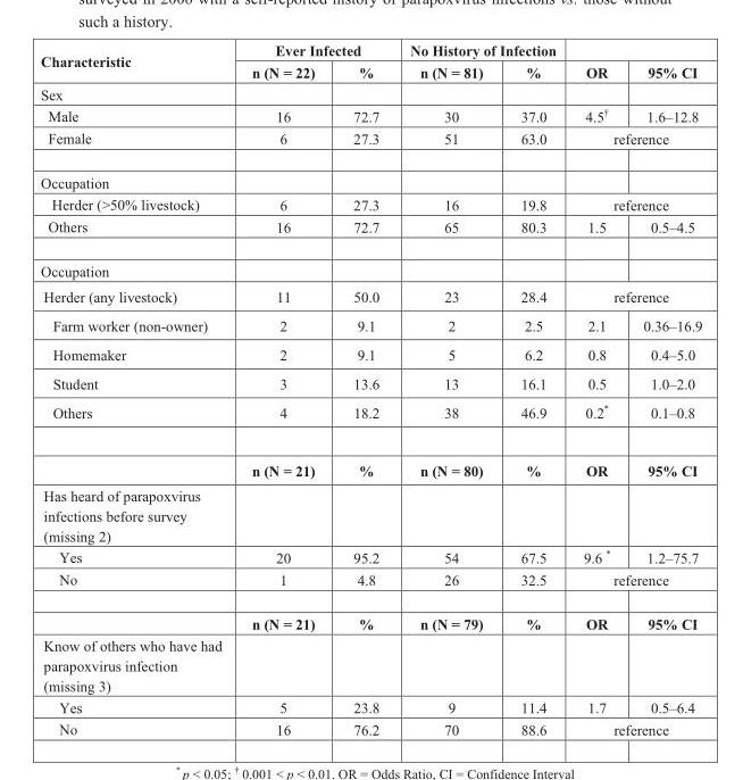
<table><thead><tr><td rowspan="2">Characteristic</td><td colspan="2">Ever Infected</td><td colspan="2">No History of Infection</td><td rowspan="2">OR</td><td rowspan="2">95% CI</td></tr><tr><td>n (N = 22)</td><td>%</td><td>n (N = 81)</td><td>%</td></tr></thead><tbody><tr><td colspan="7">Sex</td></tr><tr><td>Male</td><td>16</td><td>72.7</td><td>30</td><td>37.0</td><td>4.5<sup>†</sup></td><td>1.6–12.8</td></tr><tr><td>Female</td><td>6</td><td>27.3</td><td>51</td><td>63.0</td><td colspan="2">reference</td></tr><tr><td colspan="7">Occupation</td></tr><tr><td>Herder (&gt;50% livestock)</td><td>6</td><td>27.3</td><td>16</td><td>19.8</td><td colspan="2">reference</td></tr><tr><td>Others</td><td>16</td><td>72.7</td><td>65</td><td>80.3</td><td>1.5</td><td>0.5–4.5</td></tr><tr><td colspan="7">Occupation</td></tr><tr><td>Herder (any livestock)</td><td>11</td><td>50.0</td><td>23</td><td>28.4</td><td colspan="2">reference</td></tr><tr><td>Farm worker (non-owner)</td><td>2</td><td>9.1</td><td>2</td><td>2.5</td><td>2.1</td><td>0.36–16.9</td></tr><tr><td>Homemaker</td><td>2</td><td>9.1</td><td>5</td><td>6.2</td><td>0.8</td><td>0.4–5.0</td></tr><tr><td>Student</td><td>3</td><td>13.6</td><td>13</td><td>16.1</td><td>0.5</td><td>1.0–2.0</td></tr><tr><td rowspan="2">Others</td><td>4</td><td>18.2</td><td>38</td><td>46.9</td><td>0.2*</td><td>0.1–0.8</td></tr><tr><td>n (N = 21)</td><td>%</td><td>n (N = 80)</td><td>%</td><td>OR</td><td>95% CI</td></tr><tr><td>Has heard of parapoxvirus infections before survey</td><td rowspan="2"></td><td rowspan="2"></td><td rowspan="2"></td><td rowspan="2"></td><td rowspan="2"></td><td rowspan="2"></td></tr><tr><td>(missing 2)</td></tr><tr><td>Yes</td><td>20</td><td>95.2</td><td>54</td><td>67.5</td><td>9.6 *</td><td>1.2–75.7</td></tr><tr><td rowspan="2">No</td><td>1</td><td>4.8</td><td>26</td><td>32.5</td><td colspan="2">reference</td></tr><tr><td>n (N = 21)</td><td>%</td><td>n (N = 79)</td><td>%</td><td>OR</td><td>95% CI</td></tr><tr><td>Know of others who have had parapoxvirus infection</td><td rowspan="2"></td><td rowspan="2"></td><td rowspan="2"></td><td rowspan="2"></td><td rowspan="2"></td><td rowspan="2"></td></tr><tr><td>(missing 3)</td></tr><tr><td>Yes</td><td>5</td><td>23.8</td><td>9</td><td>11.4</td><td>1.7</td><td>0.5–6.4</td></tr><tr><td>No</td><td>16</td><td>76.2</td><td>70</td><td>88.6</td><td colspan="2">reference</td></tr></tbody></table>